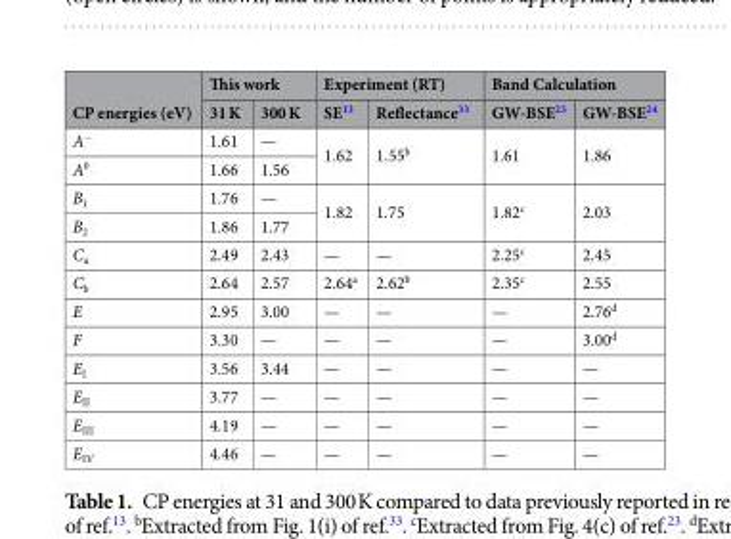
<table><thead><tr><td rowspan="2">CP energies (eV)</td><td colspan="2">This work</td><td colspan="2">Experiment (RT)</td><td colspan="2">Band Calculation</td></tr><tr><td>31 K</td><td>300 K</td><td>SE<sup>13</sup></td><td>Reflectance<sup>33</sup></td><td>GW-BSE<sup>23</sup></td><td>GW-BSE<sup>24</sup></td></tr></thead><tbody><tr><td>A<sup>−</sup></td><td>1.61</td><td>—</td><td rowspan="2">1.62</td><td rowspan="2">1.55<sup>b</sup></td><td rowspan="2">1.61</td><td rowspan="2">1.86</td></tr><tr><td>A<sup>0</sup></td><td>1.66</td><td>1.56</td></tr><tr><td>B<sub>1</sub></td><td>1.76</td><td>—</td><td rowspan="2">1.82</td><td rowspan="2">1.75</td><td rowspan="2">1.82<sup>c</sup></td><td rowspan="2">2.03</td></tr><tr><td>B<sub>2</sub></td><td>1.86</td><td>1.77</td></tr><tr><td>C<sub>a</sub></td><td>2.49</td><td>2.43</td><td>—</td><td>—</td><td>2.25<sup>c</sup></td><td>2.45</td></tr><tr><td>C<sub>b</sub></td><td>2.64</td><td>2.57</td><td>2.64<sup>a</sup></td><td>2.62<sup>b</sup></td><td>2.35<sup>c</sup></td><td>2.55</td></tr><tr><td>E</td><td>2.95</td><td>3.00</td><td>—</td><td>—</td><td>—</td><td>2.76<sup>d</sup></td></tr><tr><td>F</td><td>3.30</td><td>—</td><td>—</td><td>—</td><td>—</td><td>3.00<sup>d</sup></td></tr><tr><td>E<sub>I</sub></td><td>3.56</td><td>3.44</td><td>—</td><td>—</td><td>—</td><td>—</td></tr><tr><td>E<sub>II</sub></td><td>3.77</td><td>—</td><td>—</td><td>—</td><td>—</td><td>—</td></tr><tr><td>E<sub>III</sub></td><td>4.19</td><td>—</td><td>—</td><td>—</td><td>—</td><td>—</td></tr><tr><td>E<sub>IV</sub></td><td>4.46</td><td>—</td><td>—</td><td>—</td><td>—</td><td>—</td></tr></tbody></table>